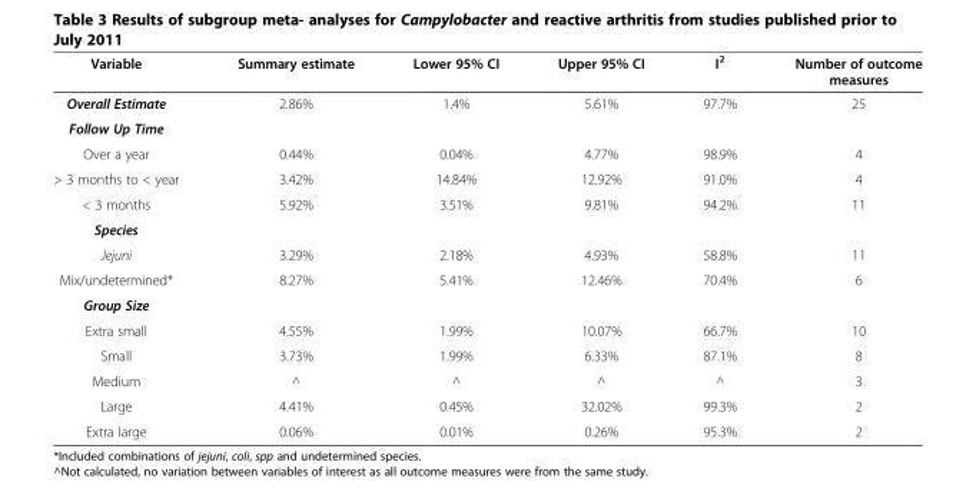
<table><thead><tr><td>Variable</td><td>Summary estimate</td><td>Lower 95% CI</td><td>Upper 95% CI</td><td>I<sup>2</sup></td><td>Number of outcome measures</td></tr></thead><tbody><tr><td>Overall Estimate</td><td>2.86%</td><td>1.4%</td><td>5.61%</td><td>97.7%</td><td>25</td></tr><tr><td colspan="6">Follow Up Time</td></tr><tr><td>Over a year</td><td>0.44%</td><td>0.04%</td><td>4.77%</td><td>98.9%</td><td>4</td></tr><tr><td>&gt; 3 months to &lt; year</td><td>3.42%</td><td>14.84%</td><td>12.92%</td><td>91.0%</td><td>4</td></tr><tr><td>&lt; 3 months</td><td>5.92%</td><td>3.51%</td><td>9.81%</td><td>94.2%</td><td>11</td></tr><tr><td colspan="6">Species</td></tr><tr><td>Jejuni</td><td>3.29%</td><td>2.18%</td><td>4.93%</td><td>58.8%</td><td>11</td></tr><tr><td>Mix/undetermined*</td><td>8.27%</td><td>5.41%</td><td>12.46%</td><td>70.4%</td><td>6</td></tr><tr><td colspan="6">Group Size</td></tr><tr><td>Extra small</td><td>4.55%</td><td>1.99%</td><td>10.07%</td><td>66.7%</td><td>10</td></tr><tr><td>Small</td><td>3.73%</td><td>1.99%</td><td>6.33%</td><td>87.1%</td><td>8</td></tr><tr><td>Medium</td><td>^</td><td>^</td><td>^</td><td>^</td><td>3</td></tr><tr><td>Large</td><td>4.41%</td><td>0.45%</td><td>32.02%</td><td>99.3%</td><td>2</td></tr><tr><td>Extra large</td><td>0.06%</td><td>0.01%</td><td>0.26%</td><td>95.3%</td><td>2</td></tr></tbody></table>